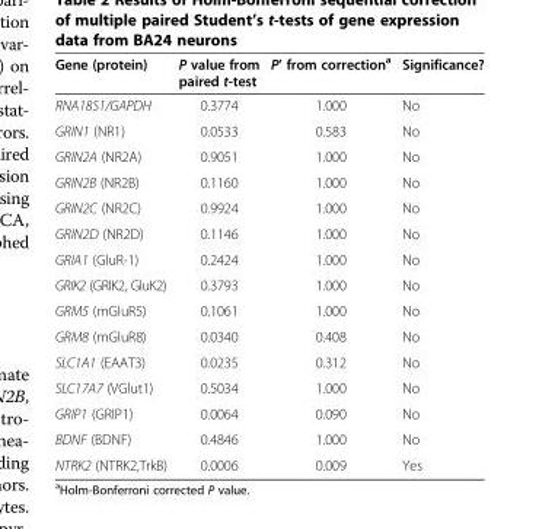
<table><thead><tr><td>Gene (protein)</td><td>P value from paired t-test</td><td>P’ from correction<sup>a</sup></td><td>Significance?</td></tr></thead><tbody><tr><td>RNA18S1/GAPDH</td><td>0.3774</td><td>1.000</td><td>No</td></tr><tr><td>GRIN1 (NR1)</td><td>0.0533</td><td>0.583</td><td>No</td></tr><tr><td>GRIN2A (NR2A)</td><td>0.9051</td><td>1.000</td><td>No</td></tr><tr><td>GRIN2B (NR2B)</td><td>0.1160</td><td>1.000</td><td>No</td></tr><tr><td>GRIN2C (NR2C)</td><td>0.9924</td><td>1.000</td><td>No</td></tr><tr><td>GRIN2D (NR2D)</td><td>0.1146</td><td>1.000</td><td>No</td></tr><tr><td>GRIA1 (GluR-1)</td><td>0.2424</td><td>1.000</td><td>No</td></tr><tr><td>GRIK2 (GRIK2, GluK2)</td><td>0.3793</td><td>1.000</td><td>No</td></tr><tr><td>GRM5 (mGluR5)</td><td>0.1061</td><td>1.000</td><td>No</td></tr><tr><td>GRM8 (mGluR8)</td><td>0.0340</td><td>0.408</td><td>No</td></tr><tr><td>SLC1A1 (EAAT3)</td><td>0.0235</td><td>0.312</td><td>No</td></tr><tr><td>SLC17A7 (VGlut1)</td><td>0.5034</td><td>1.000</td><td>No</td></tr><tr><td>GRIP1 (GRIP1)</td><td>0.0064</td><td>0.090</td><td>No</td></tr><tr><td>BDNF (BDNF)</td><td>0.4846</td><td>1.000</td><td>No</td></tr><tr><td>NTRK2 (NTRK2,TrkB)</td><td>0.0006</td><td>0.009</td><td>Yes</td></tr></tbody></table>